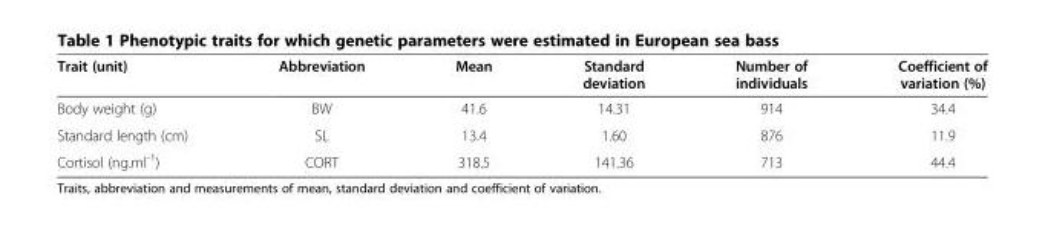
<table><thead><tr><td>Trait (unit)</td><td>Abbreviation</td><td>Mean</td><td>Standard deviation</td><td>Number of individuals</td><td>Coefficient of variation (%)</td></tr></thead><tbody><tr><td>Body weight (g)</td><td>BW</td><td>41.6</td><td>14.31</td><td>914</td><td>34.4</td></tr><tr><td>Standard length (cm)</td><td>SL</td><td>13.4</td><td>1.60</td><td>876</td><td>11.9</td></tr><tr><td>Cortisol (ng.ml<sup>-1</sup>)</td><td>CORT</td><td>318.5</td><td>141.36</td><td>713</td><td>44.4</td></tr></tbody></table>